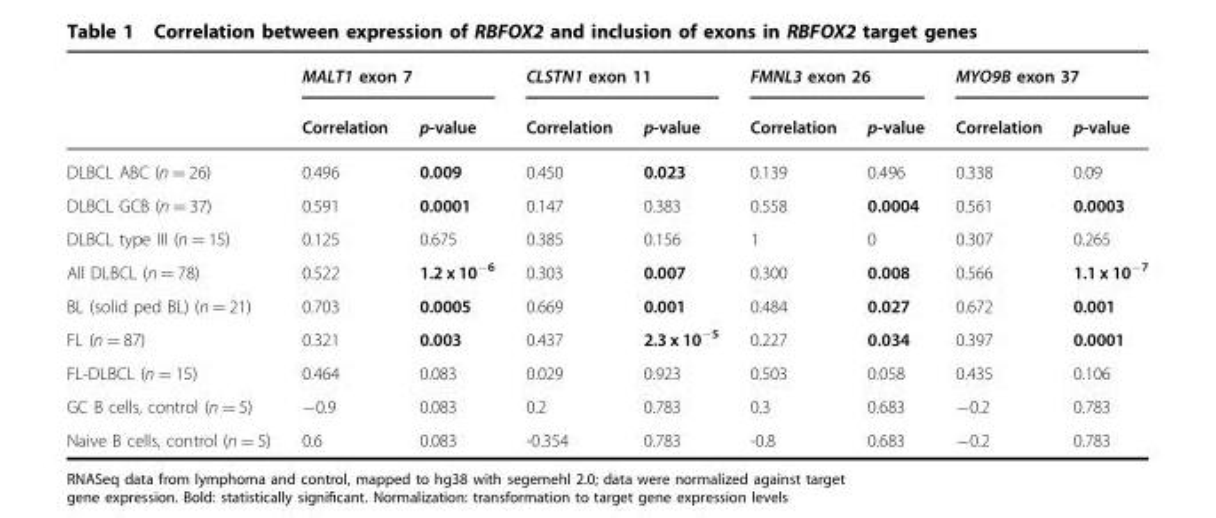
<table><thead><tr><td rowspan="2"></td><td colspan="2">MALT1 exon 7</td><td colspan="2">CLSTN1 exon 11</td><td colspan="2">FMNL3 exon 26</td><td colspan="2">MYO9B exon 37</td></tr><tr><td>Correlation</td><td>p-value</td><td>Correlation</td><td>p-value</td><td>Correlation</td><td>p-value</td><td>Correlation</td><td>p-value</td></tr></thead><tbody><tr><td>DLBCL ABC (n = 26)</td><td>0.496</td><td>0.009</td><td>0.450</td><td>0.023</td><td>0.139</td><td>0.496</td><td>0.338</td><td>0.09</td></tr><tr><td>DLBCL GCB (n = 37)</td><td>0.591</td><td>0.0001</td><td>0.147</td><td>0.383</td><td>0.558</td><td>0.0004</td><td>0.561</td><td>0.0003</td></tr><tr><td>DLBCL type III (n = 15)</td><td>0.125</td><td>0.675</td><td>0.385</td><td>0.156</td><td>1</td><td>0</td><td>0.307</td><td>0.265</td></tr><tr><td>All DLBCL (n = 78)</td><td>0.522</td><td>1.2 x 10<sup>−6</sup></td><td>0.303</td><td>0.007</td><td>0.300</td><td>0.008</td><td>0.566</td><td>1.1 x 10<sup>−7</sup></td></tr><tr><td>BL (solid ped BL) (n = 21)</td><td>0.703</td><td>0.0005</td><td>0.669</td><td>0.001</td><td>0.484</td><td>0.027</td><td>0.672</td><td>0.001</td></tr><tr><td>FL (n = 87)</td><td>0.321</td><td>0.003</td><td>0.437</td><td>2.3 x 10<sup>−5</sup></td><td>0.227</td><td>0.034</td><td>0.397</td><td>0.0001</td></tr><tr><td>FL-DLBCL (n = 15)</td><td>0.464</td><td>0.083</td><td>0.029</td><td>0.923</td><td>0.503</td><td>0.058</td><td>0.435</td><td>0.106</td></tr><tr><td>GC B cells, control (n = 5)</td><td>−0.9</td><td>0.083</td><td>0.2</td><td>0.783</td><td>0.3</td><td>0.683</td><td>−0.2</td><td>0.783</td></tr><tr><td>Naive B cells, control (n = 5)</td><td>0.6</td><td>0.083</td><td>-0.354</td><td>0.783</td><td>-0.8</td><td>0.683</td><td>−0.2</td><td>0.783</td></tr></tbody></table>